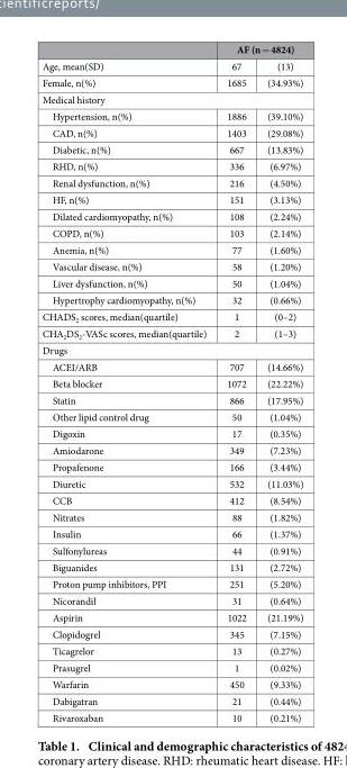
<table><thead><tr><td rowspan="2">Age, mean(SD)</td><td colspan="2">AF (n = 4824)</td></tr><tr><td>67</td><td>(13)</td></tr></thead><tbody><tr><td>Female, n(%)</td><td>1685</td><td>(34.93%)</td></tr><tr><td colspan="3">Medical history</td></tr><tr><td>Hypertension, n(%)</td><td>1886</td><td>(39.10%)</td></tr><tr><td>CAD, n(%)</td><td>1403</td><td>(29.08%)</td></tr><tr><td>Diabetic, n(%)</td><td>667</td><td>(13.83%)</td></tr><tr><td>RHD, n(%)</td><td>336</td><td>(6.97%)</td></tr><tr><td>Renal dysfunction, n(%)</td><td>216</td><td>(4.50%)</td></tr><tr><td>HF, n(%)</td><td>151</td><td>(3.13%)</td></tr><tr><td>Dilated cardiomyopathy, n(%)</td><td>108</td><td>(2.24%)</td></tr><tr><td>COPD, n(%)</td><td>103</td><td>(2.14%)</td></tr><tr><td>Anemia, n(%)</td><td>77</td><td>(1.60%)</td></tr><tr><td>Vascular disease, n(%)</td><td>58</td><td>(1.20%)</td></tr><tr><td>Liver dysfunction, n(%)</td><td>50</td><td>(1.04%)</td></tr><tr><td>Hypertrophy cardiomyopathy, n(%)</td><td>32</td><td>(0.66%)</td></tr><tr><td>CHADS<sub>2</sub> scores, median(quartile)</td><td>1</td><td>(0–2)</td></tr><tr><td>CHA<sub>2</sub>DS<sub>2</sub>-VASc scores, median(quartile)</td><td>2</td><td>(1–3)</td></tr><tr><td colspan="3">Drugs</td></tr><tr><td>ACEI/ARB</td><td>707</td><td>(14.66%)</td></tr><tr><td>Beta blocker</td><td>1072</td><td>(22.22%)</td></tr><tr><td>Statin</td><td>866</td><td>(17.95%)</td></tr><tr><td>Other lipid control drug</td><td>50</td><td>(1.04%)</td></tr><tr><td>Digoxin</td><td>17</td><td>(0.35%)</td></tr><tr><td>Amiodarone</td><td>349</td><td>(7.23%)</td></tr><tr><td>Propafenone</td><td>166</td><td>(3.44%)</td></tr><tr><td>Diuretic</td><td>532</td><td>(11.03%)</td></tr><tr><td>CCB</td><td>412</td><td>(8.54%)</td></tr><tr><td>Nitrates</td><td>88</td><td>(1.82%)</td></tr><tr><td>Insulin</td><td>66</td><td>(1.37%)</td></tr><tr><td>Sulfonylureas</td><td>44</td><td>(0.91%)</td></tr><tr><td>Biguanides</td><td>131</td><td>(2.72%)</td></tr><tr><td>Proton pump inhibitors, PPI</td><td>251</td><td>(5.20%)</td></tr><tr><td>Nicorandil</td><td>31</td><td>(0.64%)</td></tr><tr><td>Aspirin</td><td>1022</td><td>(21.19%)</td></tr><tr><td>Clopidogrel</td><td>345</td><td>(7.15%)</td></tr><tr><td>Ticagrelor</td><td>13</td><td>(0.27%)</td></tr><tr><td>Prasugrel</td><td>1</td><td>(0.02%)</td></tr><tr><td>Warfarin</td><td>450</td><td>(9.33%)</td></tr><tr><td>Dabigatran</td><td>21</td><td>(0.44%)</td></tr><tr><td>Rivaroxaban</td><td>10</td><td>(0.21%)</td></tr></tbody></table>